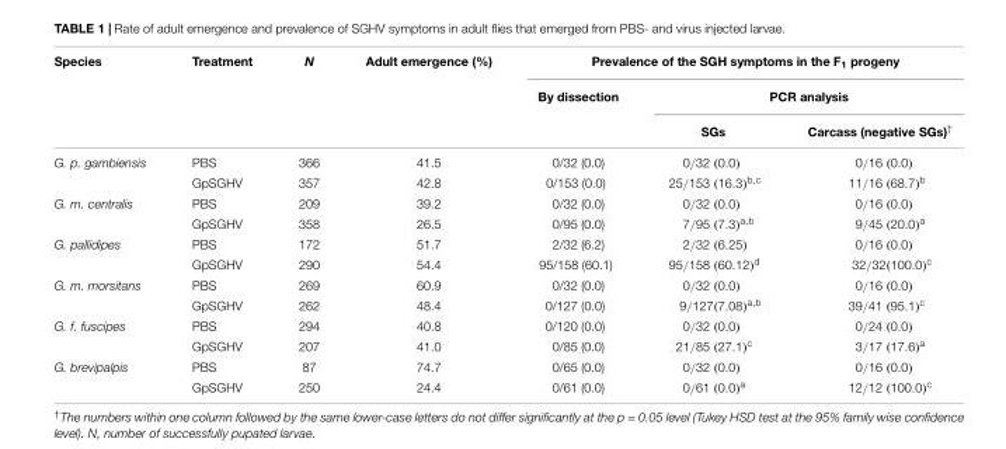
<table><thead><tr><td rowspan="3">Species</td><td rowspan="3">Treatment</td><td rowspan="3">N</td><td rowspan="3">Adult emergence (%)</td><td colspan="3">Prevalence of the SGH symptoms in the F<sub>1</sub> progeny</td></tr><tr><td rowspan="2">By dissection</td><td colspan="2">PCR analysis</td></tr><tr><td>SGs</td><td>Carcass (negative SGs)<sup>†</sup></td></tr></thead><tbody><tr><td rowspan="2">G. p. gambiensis</td><td>PBS</td><td>366</td><td>41.5</td><td>0/32 (0.0)</td><td>0/32 (0.0)</td><td>0/16 (0.0)</td></tr><tr><td>GpSGHV</td><td>357</td><td>42.8</td><td>0/153 (0.0)</td><td>25/153 (16.3)<sup>b,c</sup></td><td>11/16 (68.7)<sup>b</sup></td></tr><tr><td rowspan="2">G. m. centralis</td><td>PBS</td><td>209</td><td>39.2</td><td>0/32 (0.0)</td><td>0/32 (0.0)</td><td>0/16 (0.0)</td></tr><tr><td>GpSGHV</td><td>358</td><td>26.5</td><td>0/95 (0.0)</td><td>7/95 (7.3)<sup>a,b</sup></td><td>9/45 (20.0)<sup>a</sup></td></tr><tr><td rowspan="2">G. pallidipes</td><td>PBS</td><td>172</td><td>51.7</td><td>2/32 (6.2)</td><td>2/32 (6.25)</td><td>0/16 (0.0)</td></tr><tr><td>GpSGHV</td><td>290</td><td>54.4</td><td>95/158 (60.1)</td><td>95/158 (60.12)<sup>d</sup></td><td>32/32(100.0)<sup>c</sup></td></tr><tr><td rowspan="2">G. m. morsitans</td><td>PBS</td><td>269</td><td>60.9</td><td>0/32 (0.0)</td><td>0/32 (0.0)</td><td>0/16 (0.0)</td></tr><tr><td>GpSGHV</td><td>262</td><td>48.4</td><td>0/127 (0.0)</td><td>9/127(7.08)<sup>a,b</sup></td><td>39/41 (95.1)<sup>c</sup></td></tr><tr><td rowspan="2">G. f. fuscipes</td><td>PBS</td><td>294</td><td>40.8</td><td>0/120 (0.0)</td><td>0/32 (0.0)</td><td>0/24 (0.0)</td></tr><tr><td>GpSGHV</td><td>207</td><td>41.0</td><td>0/85 (0.0)</td><td>21/85 (27.1)<sup>c</sup></td><td>3/17 (17.6)<sup>a</sup></td></tr><tr><td rowspan="2">G. brevipalpis</td><td>PBS</td><td>87</td><td>74.7</td><td>0/65 (0.0)</td><td>0/32 (0.0)</td><td>0/16 (0.0)</td></tr><tr><td>GpSGHV</td><td>250</td><td>24.4</td><td>0/61 (0.0)</td><td>0/61 (0.0)<sup>a</sup></td><td>12/12 (100.0)<sup>c</sup></td></tr></tbody></table>